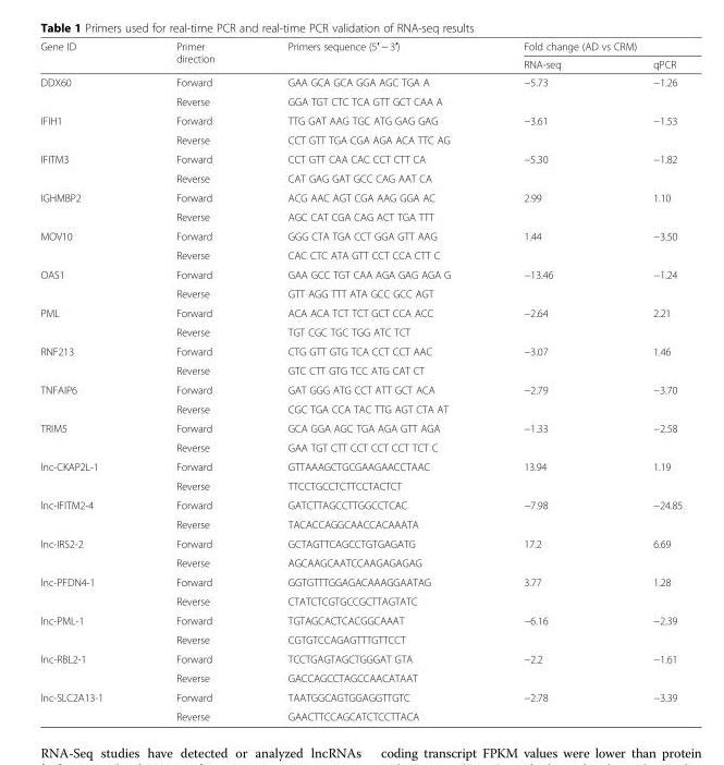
<table><thead><tr><td rowspan="2">Gene ID</td><td rowspan="2">Primer direction</td><td rowspan="2">Primers sequence (5′ ~ 3′)</td><td colspan="2">Fold change (AD vs CRM)</td></tr><tr><td>RNA-seq</td><td>qPCR</td></tr></thead><tbody><tr><td rowspan="2">DDX60</td><td>Forward</td><td>GAA GCA GCA GGA AGC TGA A</td><td>−5.73</td><td>−1.26</td></tr><tr><td>Reverse</td><td>GGA TGT CTC TCA GTT GCT CAA A</td><td></td><td></td></tr><tr><td rowspan="2">IFIH1</td><td>Forward</td><td>TTG GAT AAG TGC ATG GAG GAG</td><td>−3.61</td><td>−1.53</td></tr><tr><td>Reverse</td><td>CCT GTT TGA CGA AGA ACA TTC AG</td><td></td><td></td></tr><tr><td rowspan="2">IFITM3</td><td>Forward</td><td>CCT GTT CAA CAC CCT CTT CA</td><td>−5.30</td><td>−1.82</td></tr><tr><td>Reverse</td><td>CAT GAG GAT GCC CAG AAT CA</td><td></td><td></td></tr><tr><td rowspan="2">IGHMBP2</td><td>Forward</td><td>ACG AAC AGT CGA AAG GGA AC</td><td>2.99</td><td>1.10</td></tr><tr><td>Reverse</td><td>AGC CAT CGA CAG ACT TGA TTT</td><td></td><td></td></tr><tr><td rowspan="2">MOV10</td><td>Forward</td><td>GGG CTA TGA CCT GGA GTT AAG</td><td>1.44</td><td>−3.50</td></tr><tr><td>Reverse</td><td>CAC CTC ATA GTT CCT CCA CTT C</td><td></td><td></td></tr><tr><td rowspan="2">OAS1</td><td>Forward</td><td>GAA GCC TGT CAA AGA GAG AGA G</td><td>−13.46</td><td>−1.24</td></tr><tr><td>Reverse</td><td>GTT AGG TTT ATA GCC GCC AGT</td><td></td><td></td></tr><tr><td rowspan="2">PML</td><td>Forward</td><td>ACA ACA TCT TCT GCT CCA ACC</td><td>−2.64</td><td>2.21</td></tr><tr><td>Reverse</td><td>TGT CGC TGC TGG ATC TCT</td><td></td><td></td></tr><tr><td rowspan="2">RNF213</td><td>Forward</td><td>CTG GTT GTG TCA CCT CCT AAC</td><td>−3.07</td><td>1.46</td></tr><tr><td>Reverse</td><td>GTC CTT GTG TCC ATG CAT CT</td><td></td><td></td></tr><tr><td rowspan="2">TNFAIP6</td><td>Forward</td><td>GAT GGG ATG CCT ATT GCT ACA</td><td>−2.79</td><td>−3.70</td></tr><tr><td>Reverse</td><td>CGC TGA CCA TAC TTG AGT CTA AT</td><td></td><td></td></tr><tr><td rowspan="2">TRIM5</td><td>Forward</td><td>GCA GGA AGC TGA AGA GTT AGA</td><td>−1.33</td><td>−2.58</td></tr><tr><td>Reverse</td><td>GAA TGT CTT CCT CCT CCT TCT C</td><td></td><td></td></tr><tr><td rowspan="2">lnc-CKAP2L-1</td><td>Forward</td><td>GTTAAAGCTGCGAAGAACCTAAC</td><td>13.94</td><td>1.19</td></tr><tr><td>Reverse</td><td>TTCCTGCCTCTTCCTACTCT</td><td></td><td></td></tr><tr><td rowspan="2">lnc-IFITM2-4</td><td>Forward</td><td>GATCTTAGCCTTGGCCTCAC</td><td>−7.98</td><td>−24.85</td></tr><tr><td>Reverse</td><td>TACACCAGGCAACCACAAATA</td><td></td><td></td></tr><tr><td rowspan="2">lnc-IRS2-2</td><td>Forward</td><td>GCTAGTTCAGCCTGTGAGATG</td><td>17.2</td><td>6.69</td></tr><tr><td>Reverse</td><td>AGCAAGCAATCCAAGAGAGAG</td><td></td><td></td></tr><tr><td rowspan="2">lnc-PFDN4-1</td><td>Forward</td><td>GGTGTTTGGAGACAAAGGAATAG</td><td>3.77</td><td>1.28</td></tr><tr><td>Reverse</td><td>CTATCTCGTGCCGCTTAGTATC</td><td></td><td></td></tr><tr><td rowspan="2">lnc-PML-1</td><td>Forward</td><td>TGTAGCACTCACGGCAAAT</td><td>−6.16</td><td>−2.39</td></tr><tr><td>Reverse</td><td>CGTGTCCAGAGTTTGTTCCT</td><td></td><td></td></tr><tr><td rowspan="2">lnc-RBL2-1</td><td>Forward</td><td>TCCTGAGTAGCTGGGAT GTA</td><td>−2.2</td><td>−1.61</td></tr><tr><td>Reverse</td><td>GACCAGCCTAGCCAACATAAT</td><td></td><td></td></tr><tr><td rowspan="2">lnc-SLC2A13-1</td><td>Forward</td><td>TAATGGCAGTGGAGGTTGTC</td><td>−2.78</td><td>−3.39</td></tr><tr><td>Reverse</td><td>GAACTTCCAGCATCTCCTTACA</td><td></td><td></td></tr></tbody></table>